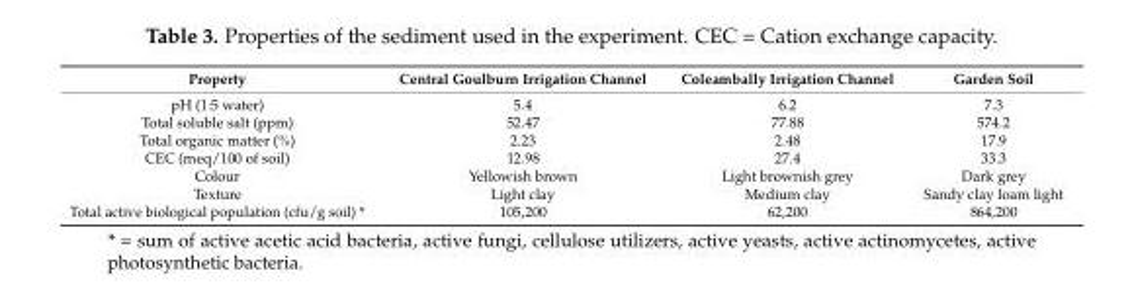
<table><thead><tr><td>Property</td><td>Central Goulburn Irrigation Channel</td><td>Coleambally Irrigation Channel</td><td>Garden Soil</td></tr></thead><tbody><tr><td>pH (1:5 water)</td><td>5.4</td><td>6.2</td><td>7.3</td></tr><tr><td>Total soluble salt (ppm)</td><td>52.47</td><td>77.88</td><td>574.2</td></tr><tr><td>Total organic matter (%)</td><td>2.23</td><td>2.48</td><td>17.9</td></tr><tr><td>CEC (meq/100 of soil)</td><td>12.98</td><td>27.4</td><td>33.3</td></tr><tr><td>Colour</td><td>Yellowish brown</td><td>Light brownish grey</td><td>Dark grey</td></tr><tr><td>Texture</td><td>Light clay</td><td>Medium clay</td><td>Sandy clay loam light</td></tr><tr><td>Total active biological population (cfu/g soil) *</td><td>105,200</td><td>62,200</td><td>864,200</td></tr></tbody></table>